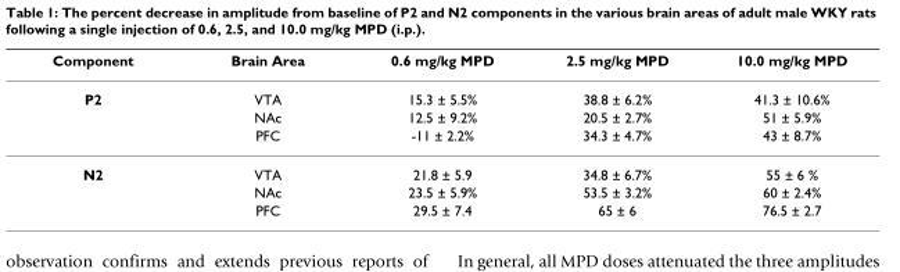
<table><thead><tr><td>Component</td><td>Brain Area</td><td>0.6 mg/kg MPD</td><td>2.5 mg/kg MPD</td><td>10.0 mg/kg MPD</td></tr></thead><tbody><tr><td rowspan="3">P2</td><td>VTA</td><td>15.3 ± 5.5%</td><td>38.8 ± 6.2%</td><td>41.3 ± 10.6%</td></tr><tr><td>NAc</td><td>12.5 ± 9.2%</td><td>20.5 ± 2.7%</td><td>51 ± 5.9%</td></tr><tr><td>PFC</td><td>-11 ± 2.2%</td><td>34.3 ± 4.7%</td><td>43 ± 8.7%</td></tr><tr><td rowspan="3">N2</td><td>VTA</td><td>21.8 ± 5.9</td><td>34.8 ± 6.7%</td><td>55 ± 6 %</td></tr><tr><td>NAc</td><td>23.5 ± 5.9%</td><td>53.5 ± 3.2%</td><td>60 ± 2.4%</td></tr><tr><td>PFC</td><td>29.5 ± 7.4</td><td>65 ± 6</td><td>76.5 ± 2.7</td></tr></tbody></table>